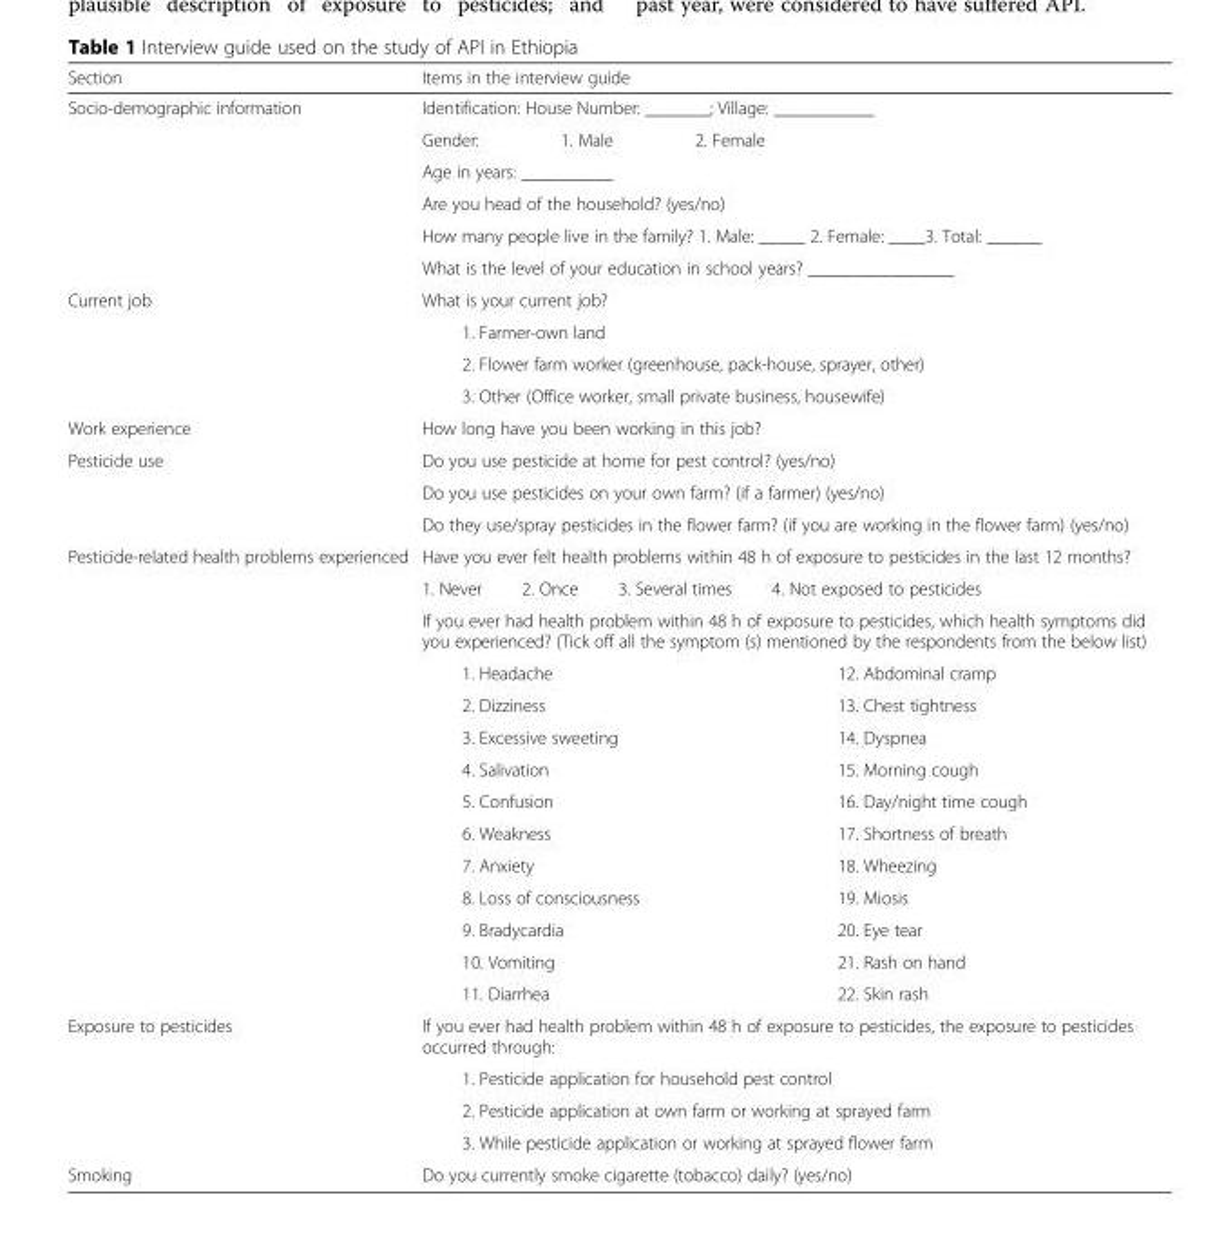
<table><thead><tr><td>Section</td><td colspan="2">Items in the interview guide</td></tr></thead><tbody><tr><td rowspan="6">Socio-demographic information</td><td colspan="2">Identification: House Number: _______; Village: ___________</td></tr><tr><td colspan="2">Gender: 1. Male 2. Female</td></tr><tr><td colspan="2">Age in years: __________</td></tr><tr><td colspan="2">Are you head of the household? (yes/no)</td></tr><tr><td colspan="2">How many people live in the family? 1. Male: _____ 2. Female: ____3. Total: ______</td></tr><tr><td colspan="2">What is the level of your education in school years? ________________</td></tr><tr><td rowspan="4">Current job</td><td colspan="2">What is your current job?</td></tr><tr><td colspan="2">1. Farmer-own land</td></tr><tr><td colspan="2">2. Flower farm worker (greenhouse, pack-house, sprayer, other)</td></tr><tr><td colspan="2">3. Other (Office worker, small private business, housewife)</td></tr><tr><td>Work experience</td><td colspan="2">How long have you been working in this job?</td></tr><tr><td rowspan="3">Pesticide use</td><td colspan="2">Do you use pesticide at home for pest control? (yes/no)</td></tr><tr><td colspan="2">Do you use pesticides on your own farm? (if a farmer) (yes/no)</td></tr><tr><td colspan="2">Do they use/spray pesticides in the flower farm? (if you are working in the flower farm) (yes/no)</td></tr><tr><td rowspan="14">Pesticide-related health problems experienced</td><td colspan="2">Have you ever felt health problems within 48 h of exposure to pesticides in the last 12 months?</td></tr><tr><td colspan="2">1. Never 2. Once 3. Several times 4. Not exposed to pesticides</td></tr><tr><td colspan="2">If you ever had health problem within 48 h of exposure to pesticides, which health symptoms did you experienced? (Tick off all the symptom (s) mentioned by the respondents from the below list)</td></tr><tr><td>1. Headache</td><td>12. Abdominal cramp</td></tr><tr><td>2. Dizziness</td><td>13. Chest tightness</td></tr><tr><td>3. Excessive sweeting</td><td>14. Dyspnea</td></tr><tr><td>4. Salivation</td><td>15. Morning cough</td></tr><tr><td>5. Confusion</td><td>16. Day/night time cough</td></tr><tr><td>6. Weakness</td><td>17. Shortness of breath</td></tr><tr><td>7. Anxiety</td><td>18. Wheezing</td></tr><tr><td>8. Loss of consciousness</td><td>19. Miosis</td></tr><tr><td>9. Bradycardia</td><td>20. Eye tear</td></tr><tr><td>10. Vomiting</td><td>21. Rash on hand</td></tr><tr><td>11. Diarrhea</td><td>22. Skin rash</td></tr><tr><td rowspan="4">Exposure to pesticides</td><td colspan="2">If you ever had health problem within 48 h of exposure to pesticides, the exposure to pesticides occurred through:</td></tr><tr><td colspan="2">1. Pesticide application for household pest control</td></tr><tr><td colspan="2">2. Pesticide application at own farm or working at sprayed farm</td></tr><tr><td colspan="2">3. While pesticide application or working at sprayed flower farm</td></tr><tr><td>Smoking</td><td colspan="2">Do you currently smoke cigarette (tobacco) daily? (yes/no)</td></tr></tbody></table>